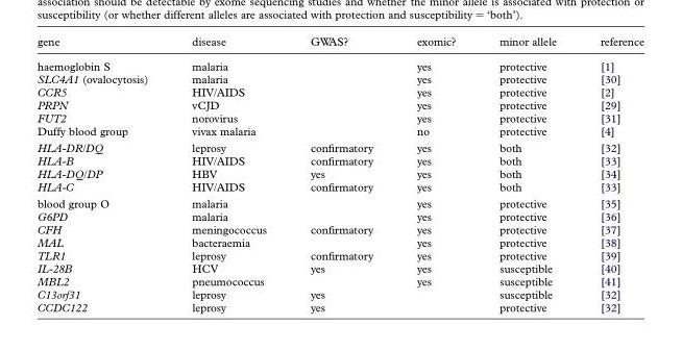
<table><thead><tr><td>gene</td><td>disease</td><td>GWAS?</td><td>exomic?</td><td>minor allele</td><td>reference</td></tr></thead><tbody><tr><td>haemoglobin S</td><td>malaria</td><td></td><td>yes</td><td>protective</td><td>[1]</td></tr><tr><td>SLC4A1 (ovalocytosis)</td><td>malaria</td><td></td><td>yes</td><td>protective</td><td>[30]</td></tr><tr><td>CCR5</td><td>HIV/AIDS</td><td></td><td>yes</td><td>protective</td><td>[2]</td></tr><tr><td>PRPN</td><td>vCJD</td><td></td><td>yes</td><td>protective</td><td>[29]</td></tr><tr><td>FUT2</td><td>norovirus</td><td></td><td>yes</td><td>protective</td><td>[31]</td></tr><tr><td>Duffy blood group</td><td>vivax malaria</td><td></td><td>no</td><td>protective</td><td>[4]</td></tr><tr><td>HLA-DR/DQ</td><td>leprosy</td><td>confirmatory</td><td>yes</td><td>both</td><td>[32]</td></tr><tr><td>HLA-B</td><td>HIV/AIDS</td><td>confirmatory</td><td>yes</td><td>both</td><td>[33]</td></tr><tr><td>HLA-DQ/DP</td><td>HBV</td><td>yes</td><td>yes</td><td>both</td><td>[34]</td></tr><tr><td>HLA-C</td><td>HIV/AIDS</td><td>confirmatory</td><td>yes</td><td>both</td><td>[33]</td></tr><tr><td>blood group O</td><td>malaria</td><td></td><td>yes</td><td>protective</td><td>[35]</td></tr><tr><td>G6PD</td><td>malaria</td><td></td><td>yes</td><td>protective</td><td>[36]</td></tr><tr><td>CFH</td><td>meningococcus</td><td>confirmatory</td><td>yes</td><td>protective</td><td>[37]</td></tr><tr><td>MAL</td><td>bacteraemia</td><td></td><td>yes</td><td>protective</td><td>[38]</td></tr><tr><td>TLR1</td><td>leprosy</td><td>confirmatory</td><td>yes</td><td>protective</td><td>[39]</td></tr><tr><td>IL-28B</td><td>HCV</td><td>yes</td><td>yes</td><td>susceptible</td><td>[40]</td></tr><tr><td>MBL2</td><td>pneumococcus</td><td></td><td>yes</td><td>susceptible</td><td>[41]</td></tr><tr><td>C13orf31</td><td>leprosy</td><td>yes</td><td></td><td>susceptible</td><td>[32]</td></tr><tr><td>CCDC122</td><td>leprosy</td><td>yes</td><td></td><td>protective</td><td>[32]</td></tr></tbody></table>